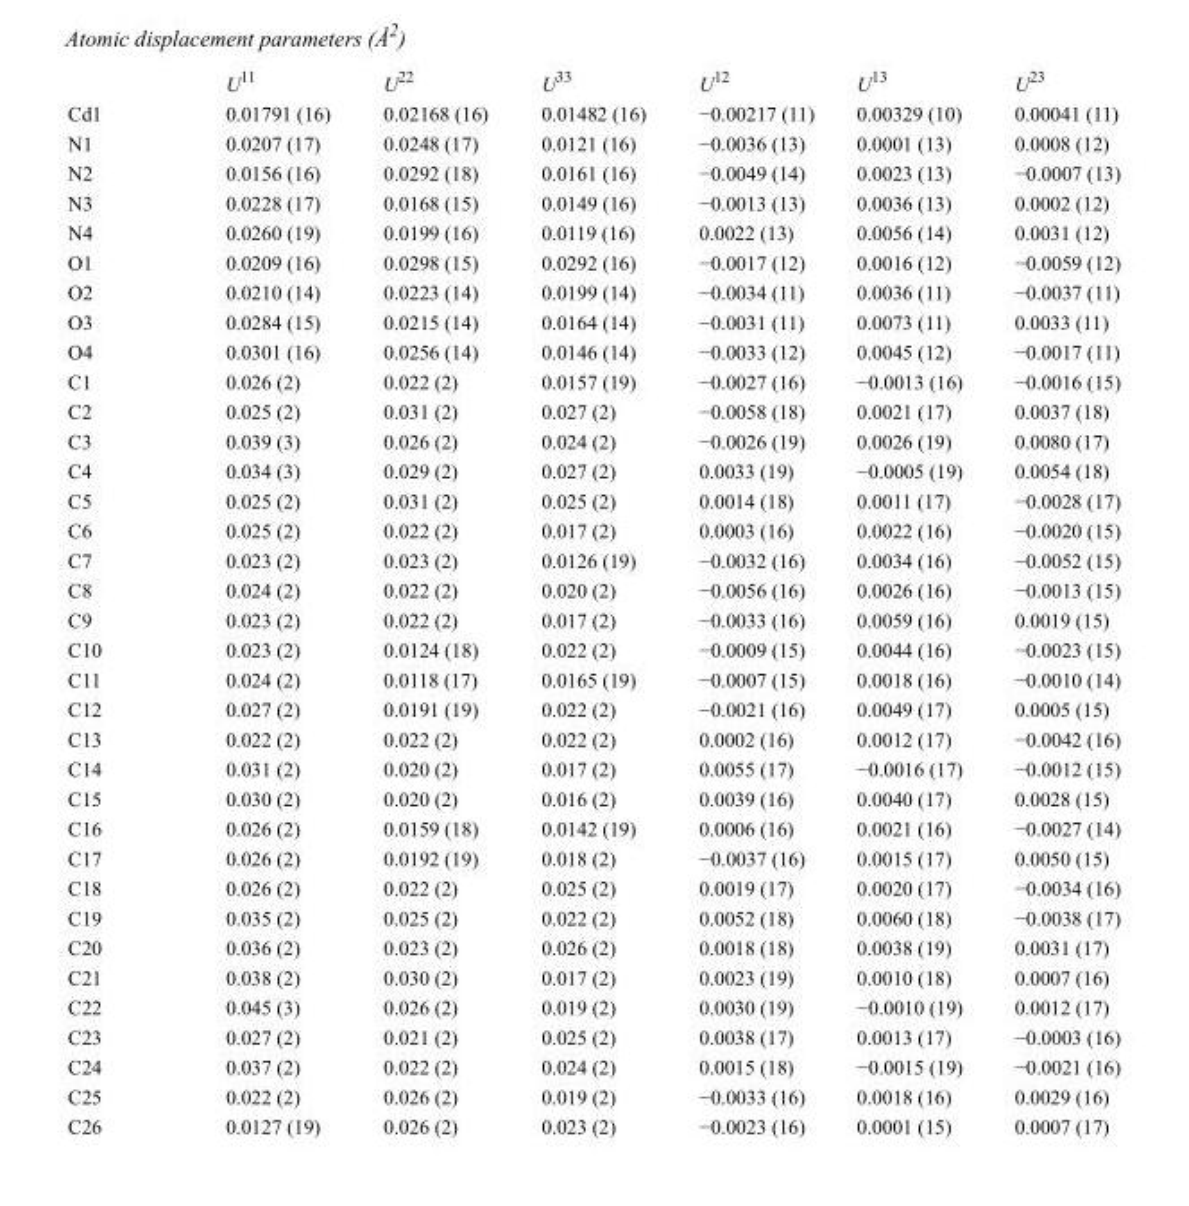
<table><thead><tr><td></td><td>U<sup>11</sup></td><td>U<sup>22</sup></td><td>U<sup>33</sup></td><td>U<sup>12</sup></td><td>U<sup>13</sup></td><td>U<sup>23</sup></td></tr></thead><tbody><tr><td>Cd1</td><td>0.01791 (16)</td><td>0.02168 (16)</td><td>0.01482 (16)</td><td>−0.00217 (11)</td><td>0.00329 (10)</td><td>0.00041 (11)</td></tr><tr><td>N1</td><td>0.0207 (17)</td><td>0.0248 (17)</td><td>0.0121 (16)</td><td>−0.0036 (13)</td><td>0.0001 (13)</td><td>0.0008 (12)</td></tr><tr><td>N2</td><td>0.0156 (16)</td><td>0.0292 (18)</td><td>0.0161 (16)</td><td>−0.0049 (14)</td><td>0.0023 (13)</td><td>−0.0007 (13)</td></tr><tr><td>N3</td><td>0.0228 (17)</td><td>0.0168 (15)</td><td>0.0149 (16)</td><td>−0.0013 (13)</td><td>0.0036 (13)</td><td>0.0002 (12)</td></tr><tr><td>N4</td><td>0.0260 (19)</td><td>0.0199 (16)</td><td>0.0119 (16)</td><td>0.0022 (13)</td><td>0.0056 (14)</td><td>0.0031 (12)</td></tr><tr><td>O1</td><td>0.0209 (16)</td><td>0.0298 (15)</td><td>0.0292 (16)</td><td>−0.0017 (12)</td><td>0.0016 (12)</td><td>−0.0059 (12)</td></tr><tr><td>O2</td><td>0.0210 (14)</td><td>0.0223 (14)</td><td>0.0199 (14)</td><td>−0.0034 (11)</td><td>0.0036 (11)</td><td>−0.0037 (11)</td></tr><tr><td>O3</td><td>0.0284 (15)</td><td>0.0215 (14)</td><td>0.0164 (14)</td><td>−0.0031 (11)</td><td>0.0073 (11)</td><td>0.0033 (11)</td></tr><tr><td>O4</td><td>0.0301 (16)</td><td>0.0256 (14)</td><td>0.0146 (14)</td><td>−0.0033 (12)</td><td>0.0045 (12)</td><td>−0.0017 (11)</td></tr><tr><td>C1</td><td>0.026 (2)</td><td>0.022 (2)</td><td>0.0157 (19)</td><td>−0.0027 (16)</td><td>−0.0013 (16)</td><td>−0.0016 (15)</td></tr><tr><td>C2</td><td>0.025 (2)</td><td>0.031 (2)</td><td>0.027 (2)</td><td>−0.0058 (18)</td><td>0.0021 (17)</td><td>0.0037 (18)</td></tr><tr><td>C3</td><td>0.039 (3)</td><td>0.026 (2)</td><td>0.024 (2)</td><td>−0.0026 (19)</td><td>0.0026 (19)</td><td>0.0080 (17)</td></tr><tr><td>C4</td><td>0.034 (3)</td><td>0.029 (2)</td><td>0.027 (2)</td><td>0.0033 (19)</td><td>−0.0005 (19)</td><td>0.0054 (18)</td></tr><tr><td>C5</td><td>0.025 (2)</td><td>0.031 (2)</td><td>0.025 (2)</td><td>0.0014 (18)</td><td>0.0011 (17)</td><td>−0.0028 (17)</td></tr><tr><td>C6</td><td>0.025 (2)</td><td>0.022 (2)</td><td>0.017 (2)</td><td>0.0003 (16)</td><td>0.0022 (16)</td><td>−0.0020 (15)</td></tr><tr><td>C7</td><td>0.023 (2)</td><td>0.023 (2)</td><td>0.0126 (19)</td><td>−0.0032 (16)</td><td>0.0034 (16)</td><td>−0.0052 (15)</td></tr><tr><td>C8</td><td>0.024 (2)</td><td>0.022 (2)</td><td>0.020 (2)</td><td>−0.0056 (16)</td><td>0.0026 (16)</td><td>−0.0013 (15)</td></tr><tr><td>C9</td><td>0.023 (2)</td><td>0.022 (2)</td><td>0.017 (2)</td><td>−0.0033 (16)</td><td>0.0059 (16)</td><td>0.0019 (15)</td></tr><tr><td>C10</td><td>0.023 (2)</td><td>0.0124 (18)</td><td>0.022 (2)</td><td>−0.0009 (15)</td><td>0.0044 (16)</td><td>−0.0023 (15)</td></tr><tr><td>C11</td><td>0.024 (2)</td><td>0.0118 (17)</td><td>0.0165 (19)</td><td>−0.0007 (15)</td><td>0.0018 (16)</td><td>−0.0010 (14)</td></tr><tr><td>C12</td><td>0.027 (2)</td><td>0.0191 (19)</td><td>0.022 (2)</td><td>−0.0021 (16)</td><td>0.0049 (17)</td><td>0.0005 (15)</td></tr><tr><td>C13</td><td>0.022 (2)</td><td>0.022 (2)</td><td>0.022 (2)</td><td>0.0002 (16)</td><td>0.0012 (17)</td><td>−0.0042 (16)</td></tr><tr><td>C14</td><td>0.031 (2)</td><td>0.020 (2)</td><td>0.017 (2)</td><td>0.0055 (17)</td><td>−0.0016 (17)</td><td>−0.0012 (15)</td></tr><tr><td>C15</td><td>0.030 (2)</td><td>0.020 (2)</td><td>0.016 (2)</td><td>0.0039 (16)</td><td>0.0040 (17)</td><td>0.0028 (15)</td></tr><tr><td>C16</td><td>0.026 (2)</td><td>0.0159 (18)</td><td>0.0142 (19)</td><td>0.0006 (16)</td><td>0.0021 (16)</td><td>−0.0027 (14)</td></tr><tr><td>C17</td><td>0.026 (2)</td><td>0.0192 (19)</td><td>0.018 (2)</td><td>−0.0037 (16)</td><td>0.0015 (17)</td><td>0.0050 (15)</td></tr><tr><td>C18</td><td>0.026 (2)</td><td>0.022 (2)</td><td>0.025 (2)</td><td>0.0019 (17)</td><td>0.0020 (17)</td><td>−0.0034 (16)</td></tr><tr><td>C19</td><td>0.035 (2)</td><td>0.025 (2)</td><td>0.022 (2)</td><td>0.0052 (18)</td><td>0.0060 (18)</td><td>−0.0038 (17)</td></tr><tr><td>C20</td><td>0.036 (2)</td><td>0.023 (2)</td><td>0.026 (2)</td><td>0.0018 (18)</td><td>0.0038 (19)</td><td>0.0031 (17)</td></tr><tr><td>C21</td><td>0.038 (2)</td><td>0.030 (2)</td><td>0.017 (2)</td><td>0.0023 (19)</td><td>0.0010 (18)</td><td>0.0007 (16)</td></tr><tr><td>C22</td><td>0.045 (3)</td><td>0.026 (2)</td><td>0.019 (2)</td><td>0.0030 (19)</td><td>−0.0010 (19)</td><td>0.0012 (17)</td></tr><tr><td>C23</td><td>0.027 (2)</td><td>0.021 (2)</td><td>0.025 (2)</td><td>0.0038 (17)</td><td>0.0013 (17)</td><td>−0.0003 (16)</td></tr><tr><td>C24</td><td>0.037 (2)</td><td>0.022 (2)</td><td>0.024 (2)</td><td>0.0015 (18)</td><td>−0.0015 (19)</td><td>−0.0021 (16)</td></tr><tr><td>C25</td><td>0.022 (2)</td><td>0.026 (2)</td><td>0.019 (2)</td><td>−0.0033 (16)</td><td>0.0018 (16)</td><td>0.0029 (16)</td></tr><tr><td>C26</td><td>0.0127 (19)</td><td>0.026 (2)</td><td>0.023 (2)</td><td>−0.0023 (16)</td><td>0.0001 (15)</td><td>0.0007 (17)</td></tr></tbody></table>